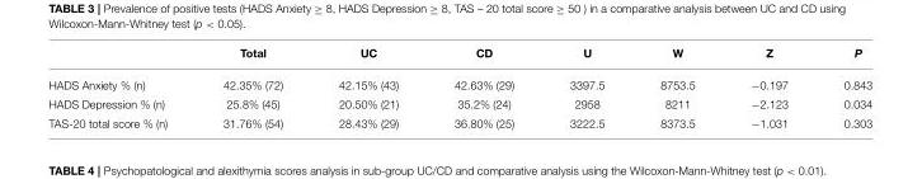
<table><thead><tr><td></td><td>Total</td><td>UC</td><td>CD</td><td>U</td><td>W</td><td>Z</td><td>P</td></tr></thead><tbody><tr><td>HADS Anxiety % (n)</td><td>42.35% (72)</td><td>42.15% (43)</td><td>42.63% (29)</td><td>3397.5</td><td>8753.5</td><td>−0.197</td><td>0.843</td></tr><tr><td>HADS Depression % (n)</td><td>25.8% (45)</td><td>20.50% (21)</td><td>35.2% (24)</td><td>2958</td><td>8211</td><td>−2.123</td><td>0.034</td></tr><tr><td>TAS-20 total score % (n)</td><td>31.76% (54)</td><td>28.43% (29)</td><td>36.80% (25)</td><td>3222.5</td><td>8373.5</td><td>−1.031</td><td>0.303</td></tr></tbody></table>